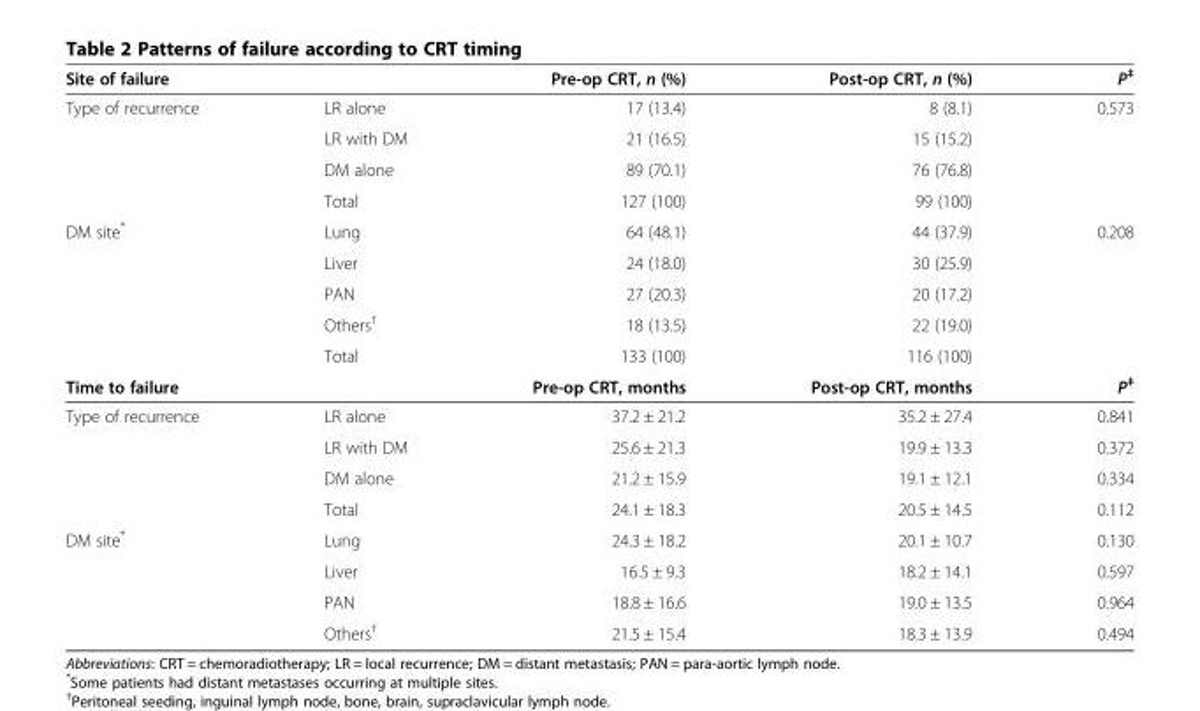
<table><thead><tr><td>Site of failure</td><td></td><td>Pre-op CRT, n (%)</td><td>Post-op CRT, n (%)</td><td>P<sup>‡</sup></td></tr></thead><tbody><tr><td rowspan="4">Type of recurrence</td><td>LR alone</td><td>17 (13.4)</td><td>8 (8.1)</td><td>0.573</td></tr><tr><td>LR with DM</td><td>21 (16.5)</td><td>15 (15.2)</td><td></td></tr><tr><td>DM alone</td><td>89 (70.1)</td><td>76 (76.8)</td><td></td></tr><tr><td>Total</td><td>127 (100)</td><td>99 (100)</td><td></td></tr><tr><td rowspan="5">DM site*</td><td>Lung</td><td>64 (48.1)</td><td>44 (37.9)</td><td>0.208</td></tr><tr><td>Liver</td><td>24 (18.0)</td><td>30 (25.9)</td><td></td></tr><tr><td>PAN</td><td>27 (20.3)</td><td>20 (17.2)</td><td></td></tr><tr><td>Others<sup>†</sup></td><td>18 (13.5)</td><td>22 (19.0)</td><td></td></tr><tr><td>Total</td><td>133 (100)</td><td>116 (100)</td><td></td></tr><tr><td>Time to failure</td><td></td><td>Pre-op CRT, months</td><td>Post-op CRT, months</td><td>P<sup>‡</sup></td></tr><tr><td rowspan="4">Type of recurrence</td><td>LR alone</td><td>37.2 ± 21.2</td><td>35.2 ± 27.4</td><td>0.841</td></tr><tr><td>LR with DM</td><td>25.6 ± 21.3</td><td>19.9 ± 13.3</td><td>0.372</td></tr><tr><td>DM alone</td><td>21.2 ± 15.9</td><td>19.1 ± 12.1</td><td>0.334</td></tr><tr><td>Total</td><td>24.1 ± 18.3</td><td>20.5 ± 14.5</td><td>0.112</td></tr><tr><td rowspan="4">DM site*</td><td>Lung</td><td>24.3 ± 18.2</td><td>20.1 ± 10.7</td><td>0.130</td></tr><tr><td>Liver</td><td>16.5 ± 9.3</td><td>18.2 ± 14.1</td><td>0.597</td></tr><tr><td>PAN</td><td>18.8 ± 16.6</td><td>19.0 ± 13.5</td><td>0.964</td></tr><tr><td>Others<sup>†</sup></td><td>21.5 ± 15.4</td><td>18.3 ± 13.9</td><td>0.494</td></tr></tbody></table>